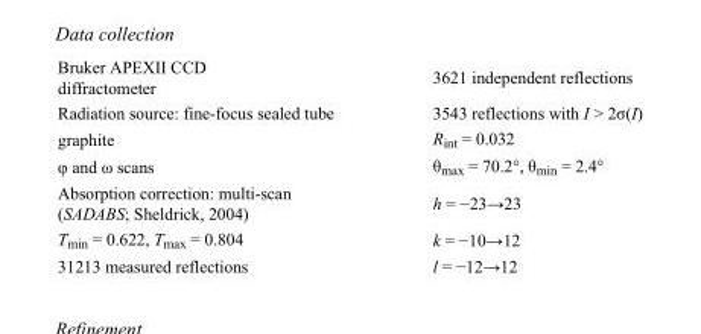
<table><tbody><tr><td>Bruker APEXII CCD diffractometer</td><td>3621 independent reflections</td></tr><tr><td>Radiation source: fine-focus sealed tube</td><td>3543 reflections with I &gt; 2σ(I)</td></tr><tr><td>graphite</td><td>R<sub>int</sub> = 0.032</td></tr><tr><td>φ and ω scans</td><td>θ<sub>max</sub> = 70.2°, θ<sub>min</sub> = 2.4°</td></tr><tr><td>Absorption correction: multi-scan (SADABS; Sheldrick, 2004)</td><td>h = −23→23</td></tr><tr><td>T<sub>min</sub> = 0.622, T<sub>max</sub> = 0.804</td><td>k = −10→12</td></tr><tr><td>31213 measured reflections</td><td>l = −12→12</td></tr></tbody></table>